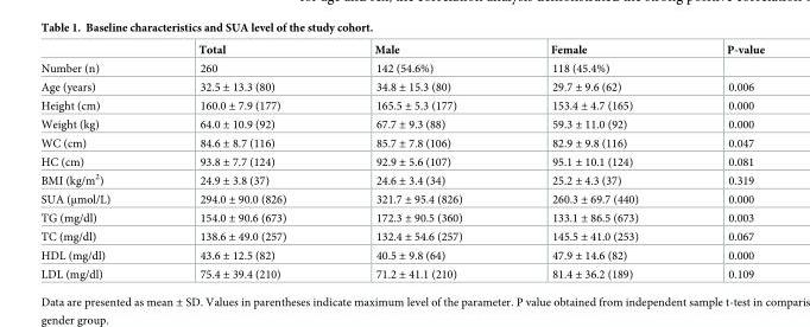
<table><thead><tr><td></td><td>Total</td><td>Male</td><td>Female</td><td>P-value</td></tr></thead><tbody><tr><td>Number (n)</td><td>260</td><td>142 (54.6%)</td><td>118 (45.4%)</td><td></td></tr><tr><td>Age (years)</td><td>32.5 ± 13.3 (80)</td><td>34.8 ± 15.3 (80)</td><td>29.7 ± 9.6 (62)</td><td>0.006</td></tr><tr><td>Height (cm)</td><td>160.0 ± 7.9 (177)</td><td>165.5 ± 5.3 (177)</td><td>153.4 ± 4.7 (165)</td><td>0.000</td></tr><tr><td>Weight (kg)</td><td>64.0 ± 10.9 (92)</td><td>67.7 ± 9.3 (88)</td><td>59.3 ± 11.0 (92)</td><td>0.000</td></tr><tr><td>WC (cm)</td><td>84.6 ± 8.7 (116)</td><td>85.7 ± 7.8 (106)</td><td>82.9 ± 9.8 (116)</td><td>0.047</td></tr><tr><td>HC (cm)</td><td>93.8 ± 7.7 (124)</td><td>92.9 ± 5.6 (107)</td><td>95.1 ± 10.1 (124)</td><td>0.081</td></tr><tr><td>BMI (kg/m<sup>2</sup>)</td><td>24.9 ± 3.8 (37)</td><td>24.6 ± 3.4 (34)</td><td>25.2 ± 4.3 (37)</td><td>0.319</td></tr><tr><td>SUA (μmol/L)</td><td>294.0 ± 90.0 (826)</td><td>321.7 ± 95.4 (826)</td><td>260.3 ± 69.7 (440)</td><td>0.000</td></tr><tr><td>TG (mg/dl)</td><td>154.0 ± 90.6 (673)</td><td>172.3 ± 90.5 (360)</td><td>133.1 ± 86.5 (673)</td><td>0.003</td></tr><tr><td>TC (mg/dl)</td><td>138.6 ± 49.0 (257)</td><td>132.4 ± 54.6 (257)</td><td>145.5 ± 41.0 (253)</td><td>0.067</td></tr><tr><td>HDL (mg/dl)</td><td>43.6 ± 12.5 (82)</td><td>40.5 ± 9.8 (64)</td><td>47.9 ± 14.6 (82)</td><td>0.000</td></tr><tr><td>LDL (mg/dl)</td><td>75.4 ± 39.4 (210)</td><td>71.2 ± 41.1 (210)</td><td>81.4 ± 36.2 (189)</td><td>0.109</td></tr></tbody></table>